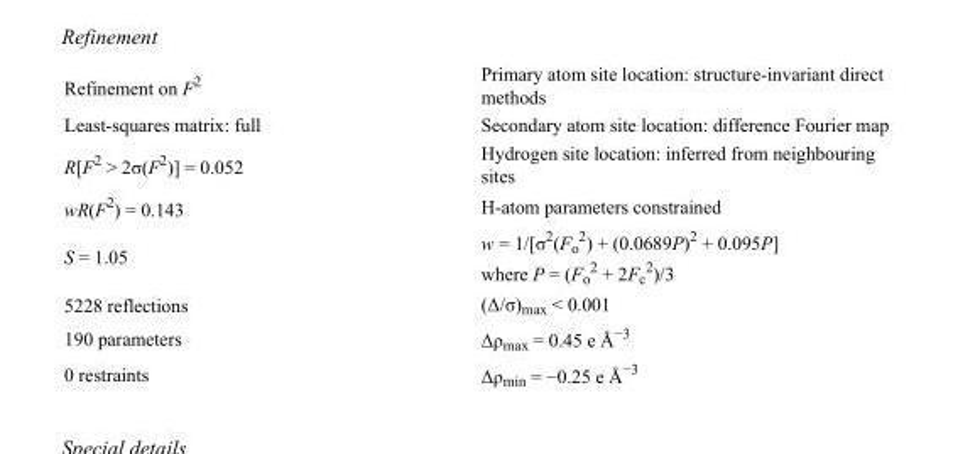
<table><tbody><tr><td>Refinement on F<sup>2</sup></td><td>Primary atom site location: structure-invariant direct methods</td></tr><tr><td>Least-squares matrix: full</td><td>Secondary atom site location: difference Fourier map</td></tr><tr><td>R[F<sup>2</sup> &gt; 2σ(F<sup>2</sup>)] = 0.052</td><td>Hydrogen site location: inferred from neighbouring sites</td></tr><tr><td>wR(F<sup>2</sup>) = 0.143</td><td>H-atom parameters constrained</td></tr><tr><td>S = 1.05</td><td>w = 1/[σ<sup>2</sup>(F<sub>o</sub> <sup>2</sup>) + (0.0689P)<sup>2</sup> + 0.095P] where P = (F<sub>o</sub> <sup>2</sup> + 2F<sub>c</sub> <sup>2</sup>)/3</td></tr><tr><td>5228 reflections</td><td>(Δ/σ)<sub>max</sub> &lt; 0.001</td></tr><tr><td>190 parameters</td><td>Δρ<sub>max</sub> = 0.45 e Å<sup>−3</sup></td></tr><tr><td>0 restraints</td><td>Δρ<sub>min</sub> = −0.25 e Å<sup>−3</sup></td></tr></tbody></table>